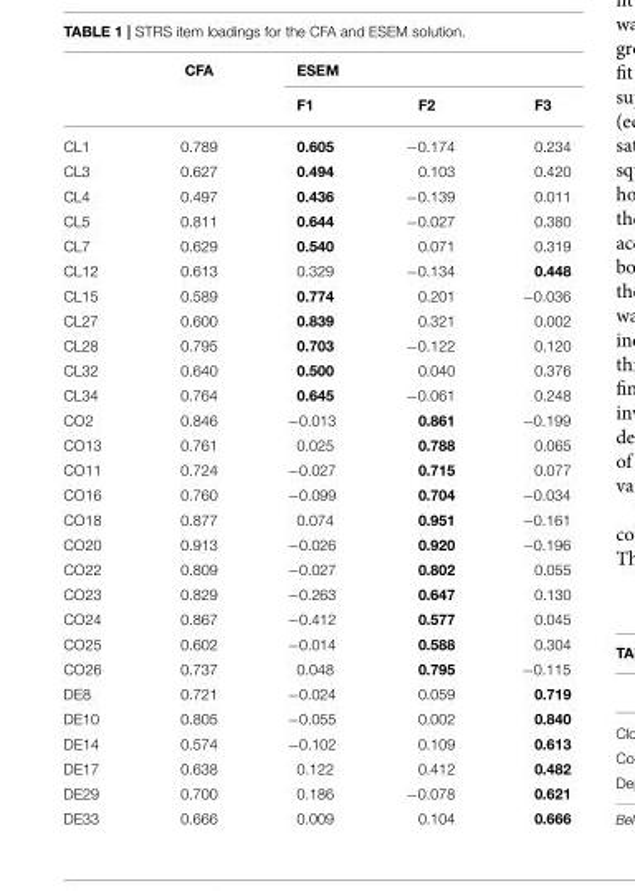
<table><thead><tr><td rowspan="2"></td><td rowspan="2">CFA</td><td colspan="3">ESEM</td></tr><tr><td>F1</td><td>F2</td><td>F3</td></tr></thead><tbody><tr><td>CL1</td><td>0.789</td><td>0.605</td><td>−0.174</td><td>0.234</td></tr><tr><td>CL3</td><td>0.627</td><td>0.494</td><td>0.103</td><td>0.420</td></tr><tr><td>CL4</td><td>0.497</td><td>0.436</td><td>−0.139</td><td>0.011</td></tr><tr><td>CL5</td><td>0.811</td><td>0.644</td><td>−0.027</td><td>0.380</td></tr><tr><td>CL7</td><td>0.629</td><td>0.540</td><td>0.071</td><td>0.319</td></tr><tr><td>CL12</td><td>0.613</td><td>0.329</td><td>−0.134</td><td>0.448</td></tr><tr><td>CL15</td><td>0.589</td><td>0.774</td><td>0.201</td><td>−0.036</td></tr><tr><td>CL27</td><td>0.600</td><td>0.839</td><td>0.321</td><td>0.002</td></tr><tr><td>CL28</td><td>0.795</td><td>0.703</td><td>−0.122</td><td>0.120</td></tr><tr><td>CL32</td><td>0.640</td><td>0.500</td><td>0.040</td><td>0.376</td></tr><tr><td>CL34</td><td>0.764</td><td>0.645</td><td>−0.061</td><td>0.248</td></tr><tr><td>CO2</td><td>0.846</td><td>−0.013</td><td>0.861</td><td>−0.199</td></tr><tr><td>CO13</td><td>0.761</td><td>0.025</td><td>0.788</td><td>0.065</td></tr><tr><td>CO11</td><td>0.724</td><td>−0.027</td><td>0.715</td><td>0.077</td></tr><tr><td>CO16</td><td>0.760</td><td>−0.099</td><td>0.704</td><td>−0.034</td></tr><tr><td>CO18</td><td>0.877</td><td>0.074</td><td>0.951</td><td>−0.161</td></tr><tr><td>CO20</td><td>0.913</td><td>−0.026</td><td>0.920</td><td>−0.196</td></tr><tr><td>CO22</td><td>0.809</td><td>−0.027</td><td>0.802</td><td>0.055</td></tr><tr><td>CO23</td><td>0.829</td><td>−0.263</td><td>0.647</td><td>0.130</td></tr><tr><td>CO24</td><td>0.867</td><td>−0.412</td><td>0.577</td><td>0.045</td></tr><tr><td>CO25</td><td>0.602</td><td>−0.014</td><td>0.588</td><td>0.304</td></tr><tr><td>CO26</td><td>0.737</td><td>0.048</td><td>0.795</td><td>−0.115</td></tr><tr><td>DE8</td><td>0.721</td><td>−0.024</td><td>0.059</td><td>0.719</td></tr><tr><td>DE10</td><td>0.805</td><td>−0.055</td><td>0.002</td><td>0.840</td></tr><tr><td>DE14</td><td>0.574</td><td>−0.102</td><td>0.109</td><td>0.613</td></tr><tr><td>DE17</td><td>0.638</td><td>0.122</td><td>0.412</td><td>0.482</td></tr><tr><td>DE29</td><td>0.700</td><td>0.186</td><td>−0.078</td><td>0.621</td></tr><tr><td>DE33</td><td>0.666</td><td>0.009</td><td>0.104</td><td>0.666</td></tr></tbody></table>